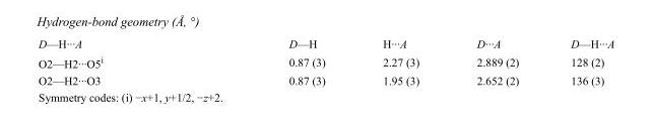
<table><tbody><tr><td>D—H···A</td><td>D—H</td><td>H···A</td><td>D···A</td><td>D—H···A</td></tr><tr><td>O2—H2···O5<sup>i</sup></td><td>0.87 (3)</td><td>2.27 (3)</td><td>2.889 (2)</td><td>128 (2)</td></tr><tr><td>O2—H2···O3</td><td>0.87 (3)</td><td>1.95 (3)</td><td>2.652 (2)</td><td>136 (3)</td></tr></tbody></table>